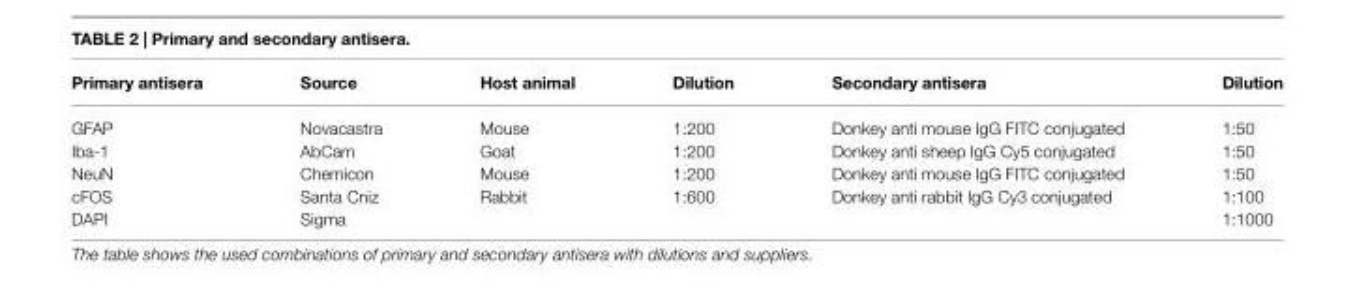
<table><thead><tr><td>Primary antisera</td><td>Source</td><td>Host animal</td><td>Dilution</td><td>Secondary antisera</td><td>Dilution</td></tr></thead><tbody><tr><td>GFAP</td><td>Novacastra</td><td>Mouse</td><td>1:200</td><td>Donkey anti mouse IgG FITC conjugated</td><td>1:50</td></tr><tr><td>Iba-1</td><td>AbCam</td><td>Goat</td><td>1:200</td><td>Donkey anti sheep IgG Cy5 conjugated</td><td>1:50</td></tr><tr><td>NeuN</td><td>Chemicon</td><td>Mouse</td><td>1:200</td><td>Donkey anti mouse IgG FITC conjugated</td><td>1:50</td></tr><tr><td>cFOS</td><td>Santa Cniz</td><td>Rabbit</td><td>1:600</td><td>Donkey anti rabbit IgG Cy3 conjugated</td><td>1:100</td></tr><tr><td>DAPI</td><td>Sigma</td><td></td><td></td><td></td><td>1:1000</td></tr></tbody></table>